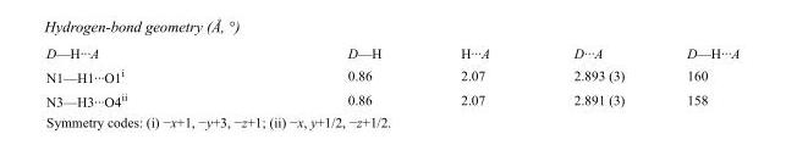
<table><tbody><tr><td>D—H···A</td><td>D—H</td><td>H···A</td><td>D···A</td><td>D—H···A</td></tr><tr><td>N1—H1···O1<sup>i</sup></td><td>0.86</td><td>2.07</td><td>2.893 (3)</td><td>160</td></tr><tr><td>N3—H3···O4<sup>ii</sup></td><td>0.86</td><td>2.07</td><td>2.891 (3)</td><td>158</td></tr></tbody></table>